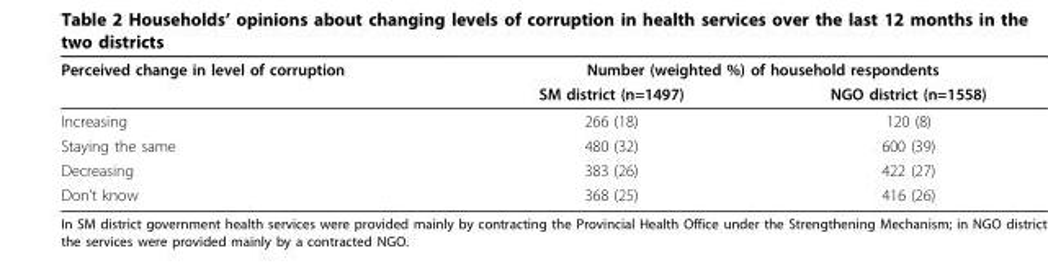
<table><thead><tr><td rowspan="2">Perceived change in level of corruption</td><td colspan="2">Number (weighted %) of household respondents</td></tr><tr><td>SM district (n=1497)</td><td>NGO district (n=1558)</td></tr></thead><tbody><tr><td>Increasing</td><td>266 (18)</td><td>120 (8)</td></tr><tr><td>Staying the same</td><td>480 (32)</td><td>600 (39)</td></tr><tr><td>Decreasing</td><td>383 (26)</td><td>422 (27)</td></tr><tr><td>Don’t know</td><td>368 (25)</td><td>416 (26)</td></tr></tbody></table>